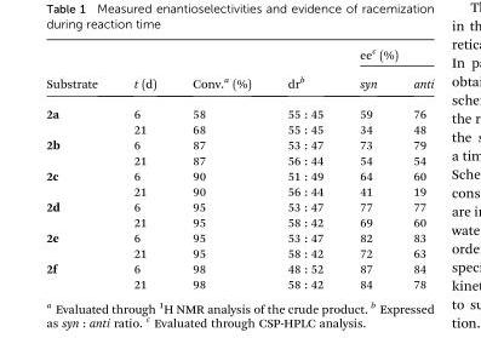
<table><thead><tr><td rowspan="2">Substrate</td><td rowspan="2">t (d)</td><td rowspan="2">Conv.<sup>a</sup> (%)</td><td rowspan="2">dr<sup>b</sup></td><td colspan="2">ee<sup>c</sup> (%)</td></tr><tr><td>syn</td><td>anti</td></tr></thead><tbody><tr><td rowspan="2">2a</td><td>6</td><td>58</td><td>55 : 45</td><td>59</td><td>76</td></tr><tr><td>21</td><td>68</td><td>55 : 45</td><td>34</td><td>48</td></tr><tr><td rowspan="2">2b</td><td>6</td><td>87</td><td>53 : 47</td><td>73</td><td>79</td></tr><tr><td>21</td><td>87</td><td>56 : 44</td><td>54</td><td>54</td></tr><tr><td rowspan="2">2c</td><td>6</td><td>90</td><td>51 : 49</td><td>64</td><td>60</td></tr><tr><td>21</td><td>90</td><td>56 : 44</td><td>41</td><td>19</td></tr><tr><td rowspan="2">2d</td><td>6</td><td>95</td><td>53 : 47</td><td>77</td><td>77</td></tr><tr><td>21</td><td>95</td><td>58 : 42</td><td>69</td><td>60</td></tr><tr><td rowspan="2">2e</td><td>6</td><td>95</td><td>53 : 47</td><td>82</td><td>83</td></tr><tr><td>21</td><td>95</td><td>58 : 42</td><td>72</td><td>63</td></tr><tr><td rowspan="2">2f</td><td>6</td><td>98</td><td>48 : 52</td><td>87</td><td>84</td></tr><tr><td>21</td><td>98</td><td>58 : 42</td><td>84</td><td>78</td></tr></tbody></table>